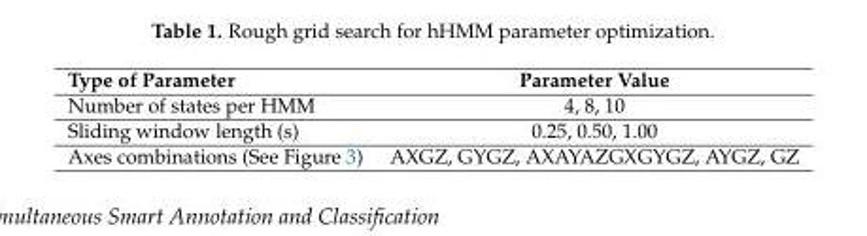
<table><thead><tr><td>Type of Parameter</td><td>Parameter Value</td></tr></thead><tbody><tr><td>Number of states per HMM</td><td>4, 8, 10</td></tr><tr><td>Sliding window length (s)</td><td>0.25, 0.50, 1.00</td></tr><tr><td>Axes combinations (See Figure 3)</td><td>AXGZ, GYGZ, AXAYAZGXGYGZ, AYGZ, GZ</td></tr></tbody></table>